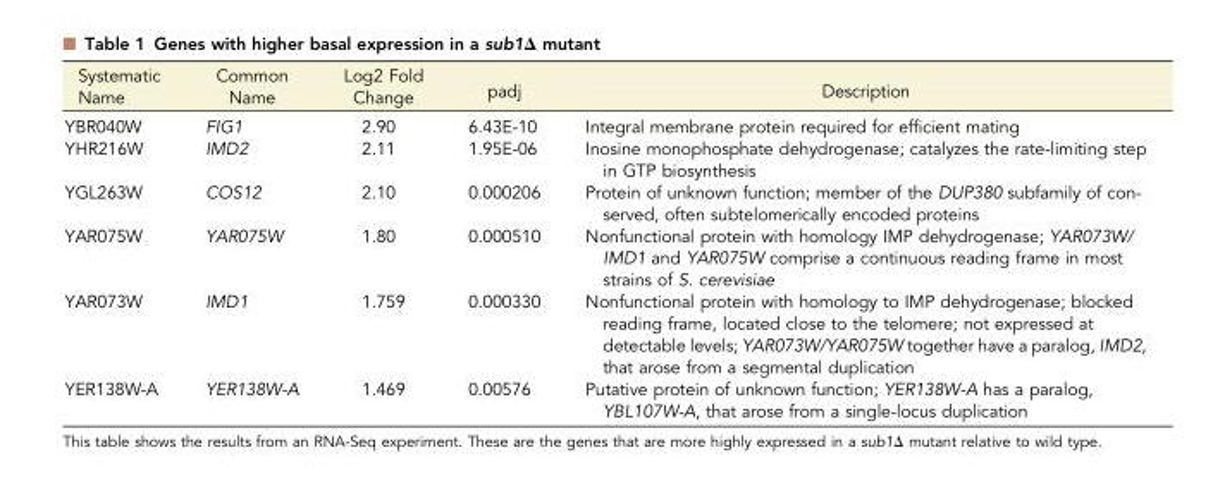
<table><thead><tr><td>Systematic Name</td><td>Common Name</td><td>Log2 Fold Change</td><td>padj</td><td>Description</td></tr></thead><tbody><tr><td>YBR040W</td><td>FIG1</td><td>2.90</td><td>6.43E-10</td><td>Integral membrane protein required for efficient mating</td></tr><tr><td>YHR216W</td><td>IMD2</td><td>2.11</td><td>1.95E-06</td><td>Inosine monophosphate dehydrogenase; catalyzes the rate-limiting step in GTP biosynthesis</td></tr><tr><td>YGL263W</td><td>COS12</td><td>2.10</td><td>0.000206</td><td>Protein of unknown function; member of the DUP380 subfamily of con- served, often subtelomerically encoded proteins</td></tr><tr><td>YAR075W</td><td>YAR075W</td><td>1.80</td><td>0.000510</td><td>Nonfunctional protein with homology IMP dehydrogenase; YAR073W/ IMD1 and YAR075W comprise a continuous reading frame in most strains of S. cerevisiae</td></tr><tr><td>YAR073W</td><td>IMD1</td><td>1.759</td><td>0.000330</td><td>Nonfunctional protein with homology to IMP dehydrogenase; blocked reading frame, located close to the telomere; not expressed at detectable levels; YAR073W/YAR075W together have a paralog, IMD2, that arose from a segmental duplication</td></tr><tr><td>YER138W-A</td><td>YER138W-A</td><td>1.469</td><td>0.00576</td><td>Putative protein of unknown function; YER138W-A has a paralog, YBL107W-A, that arose from a single-locus duplication</td></tr></tbody></table>